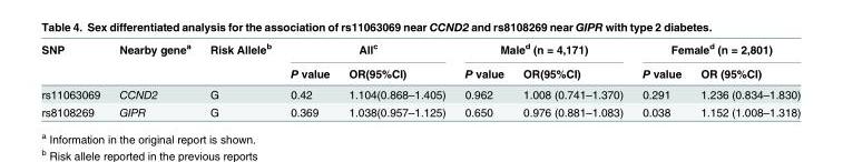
<table><thead><tr><td rowspan="2">SNP</td><td rowspan="2">Nearby gene<sup>a</sup></td><td rowspan="2">Risk Allele<sup>b</sup></td><td colspan="2">All<sup>c</sup></td><td colspan="2">Male<sup>d</sup> (n = 4,171)</td><td colspan="2">Female<sup>d</sup> (n = 2,801)</td></tr><tr><td>P value</td><td>OR(95%CI)</td><td>P value</td><td>OR(95%CI)</td><td>P value</td><td>OR (95%CI)</td></tr></thead><tbody><tr><td>rs11063069</td><td>CCND2</td><td>G</td><td>0.42</td><td>1.104(0.868–1.405)</td><td>0.962</td><td>1.008 (0.741–1.370)</td><td>0.291</td><td>1.236 (0.834–1.830)</td></tr><tr><td>rs8108269</td><td>GIPR</td><td>G</td><td>0.369</td><td>1.038(0.957–1.125)</td><td>0.650</td><td>0.976 (0.881–1.083)</td><td>0.038</td><td>1.152 (1.008–1.318)</td></tr></tbody></table>